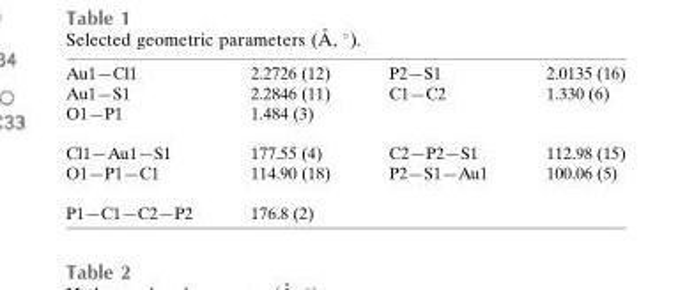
<table><tbody><tr><td>Au1—Cl1</td><td>2.2726 (12)</td><td>P2—S1</td><td>2.0135 (16)</td></tr><tr><td>Au1—S1</td><td>2.2846 (11)</td><td>C1—C2</td><td>1.330 (6)</td></tr><tr><td>O1—P1</td><td>1.484 (3)</td><td></td><td></td></tr><tr><td>Cl1—Au1—S1</td><td>177.55 (4)</td><td>C2—P2—S1</td><td>112.98 (15)</td></tr><tr><td>O1—P1—C1</td><td>114.90 (18)</td><td>P2—S1—Au1</td><td>100.06 (5)</td></tr><tr><td>P1—C1—C2—P2</td><td>176.8 (2)</td><td></td><td></td></tr></tbody></table>